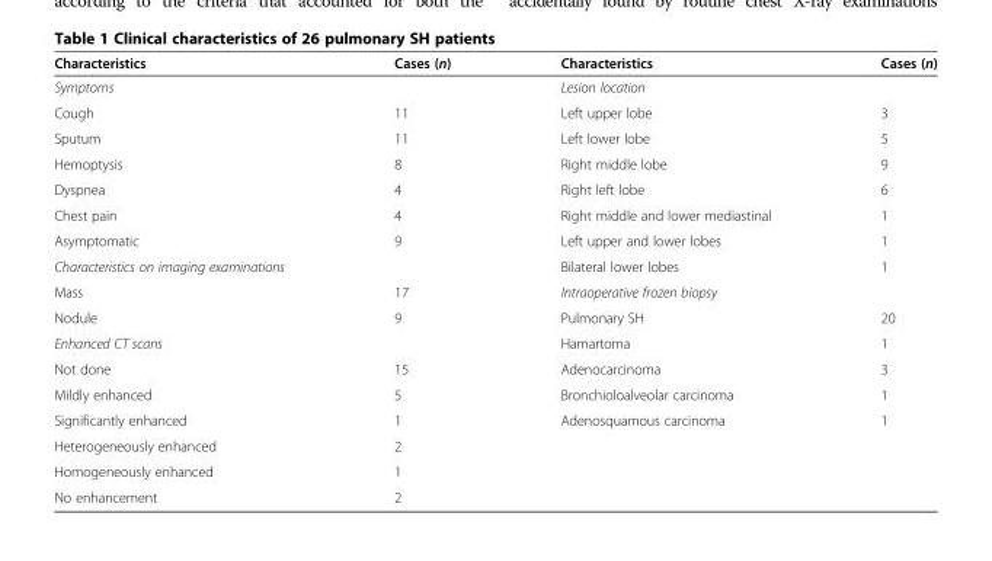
<table><thead><tr><td>Characteristics</td><td>Cases (n)</td><td>Characteristics</td><td>Cases (n)</td></tr></thead><tbody><tr><td>Symptoms</td><td></td><td>Lesion location</td><td></td></tr><tr><td>Cough</td><td>11</td><td>Left upper lobe</td><td>3</td></tr><tr><td>Sputum</td><td>11</td><td>Left lower lobe</td><td>5</td></tr><tr><td>Hemoptysis</td><td>8</td><td>Right middle lobe</td><td>9</td></tr><tr><td>Dyspnea</td><td>4</td><td>Right left lobe</td><td>6</td></tr><tr><td>Chest pain</td><td>4</td><td>Right middle and lower mediastinal</td><td>1</td></tr><tr><td>Asymptomatic</td><td>9</td><td>Left upper and lower lobes</td><td>1</td></tr><tr><td>Characteristics on imaging examinations</td><td></td><td>Bilateral lower lobes</td><td>1</td></tr><tr><td>Mass</td><td>17</td><td>Intraoperative frozen biopsy</td><td></td></tr><tr><td>Nodule</td><td>9</td><td>Pulmonary SH</td><td>20</td></tr><tr><td>Enhanced CT scans</td><td></td><td>Hamartoma</td><td>1</td></tr><tr><td>Not done</td><td>15</td><td>Adenocarcinoma</td><td>3</td></tr><tr><td>Mildly enhanced</td><td>5</td><td>Bronchioloalveolar carcinoma</td><td>1</td></tr><tr><td>Significantly enhanced</td><td>1</td><td>Adenosquamous carcinoma</td><td>1</td></tr><tr><td>Heterogeneously enhanced</td><td>2</td><td></td><td></td></tr><tr><td>Homogeneously enhanced</td><td>1</td><td></td><td></td></tr><tr><td>No enhancement</td><td>2</td><td></td><td></td></tr></tbody></table>